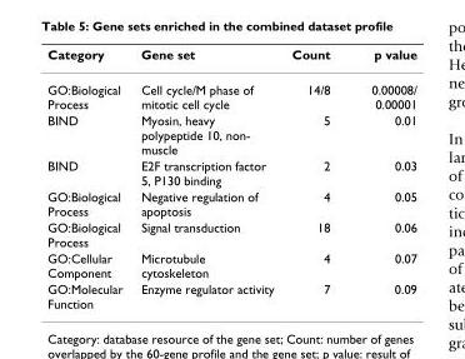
<table><thead><tr><td>Category</td><td>Gene set</td><td>Count</td><td>p value</td></tr></thead><tbody><tr><td>GO:Biological Process</td><td>Cell cycle/M phase of mitotic cell cycle</td><td>14/8</td><td>0.00008/ 0.00001</td></tr><tr><td>BIND</td><td>Myosin, heavy polypeptide 10, non- muscle</td><td>5</td><td>0.01</td></tr><tr><td>BIND</td><td>E2F transcription factor 5, P130 binding</td><td>2</td><td>0.03</td></tr><tr><td>GO:Biological Process</td><td>Negative regulation of apoptosis</td><td>4</td><td>0.05</td></tr><tr><td>GO:Biological Process</td><td>Signal transduction</td><td>18</td><td>0.06</td></tr><tr><td>GO:Cellular Component</td><td>Microtubule cytoskeleton</td><td>4</td><td>0.07</td></tr><tr><td>GO:Molecular Function</td><td>Enzyme regulator activity</td><td>7</td><td>0.09</td></tr></tbody></table>